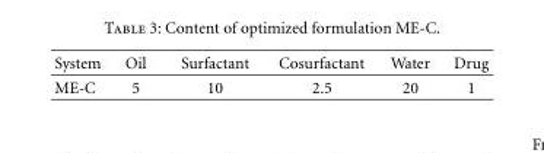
<table><thead><tr><td>System</td><td>Oil</td><td>Surfactant</td><td>Cosurfactant</td><td>Water</td><td>Drug</td></tr></thead><tbody><tr><td>ME-C</td><td>5</td><td>10</td><td>2.5</td><td>20</td><td>1</td></tr></tbody></table>